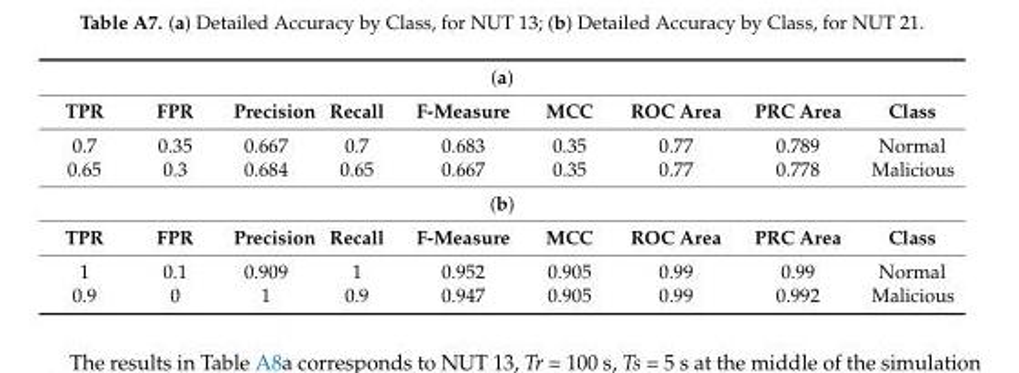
<table><tbody><tr><td colspan="9">(a)</td></tr><tr><td>TPR</td><td>FPR</td><td>Precision</td><td>Recall</td><td>F-Measure</td><td>MCC</td><td>ROC Area</td><td>PRC Area</td><td>Class</td></tr><tr><td>0.7</td><td>0.35</td><td>0.667</td><td>0.7</td><td>0.683</td><td>0.35</td><td>0.77</td><td>0.789</td><td>Normal</td></tr><tr><td>0.65</td><td>0.3</td><td>0.684</td><td>0.65</td><td>0.667</td><td>0.35</td><td>0.77</td><td>0.778</td><td>Malicious</td></tr><tr><td colspan="9">(b)</td></tr><tr><td>TPR</td><td>FPR</td><td>Precision</td><td>Recall</td><td>F-Measure</td><td>MCC</td><td>ROC Area</td><td>PRC Area</td><td>Class</td></tr><tr><td>1</td><td>0.1</td><td>0.909</td><td>1</td><td>0.952</td><td>0.905</td><td>0.99</td><td>0.99</td><td>Normal</td></tr><tr><td>0.9</td><td>0</td><td>1</td><td>0.9</td><td>0.947</td><td>0.905</td><td>0.99</td><td>0.992</td><td>Malicious</td></tr></tbody></table>